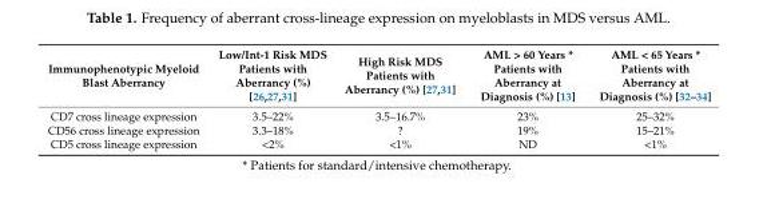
<table><thead><tr><td>Immunophenotypic Myeloid Blast Aberrancy</td><td>Low/Int-1 Risk MDS Patients with Aberrancy (%) [26,27,31]</td><td>High Risk MDS Patients with Aberrancy (%) [27,31]</td><td>AML &gt; 60 Years * Patients with Aberrancy at Diagnosis (%) [13]</td><td>AML &lt; 65 Years * Patients with Aberrancy at Diagnosis (%) [32–34]</td></tr></thead><tbody><tr><td>CD7 cross lineage expression</td><td>3.5–22%</td><td>3.5–16.7%</td><td>23%</td><td>25–32%</td></tr><tr><td>CD56 cross lineage expression</td><td>3.3–18%</td><td>?</td><td>19%</td><td>15–21%</td></tr><tr><td>CD5 cross lineage expression</td><td>&lt;2%</td><td>&lt;1%</td><td>ND</td><td>&lt;1%</td></tr></tbody></table>